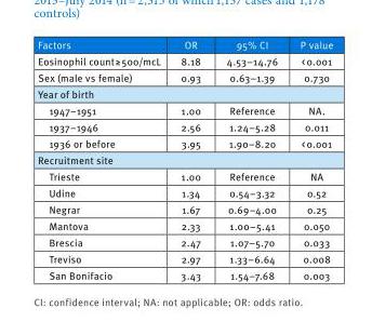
<table><thead><tr><td>Factors</td><td>OR</td><td>95% CI</td><td>P value</td></tr></thead><tbody><tr><td>Eosinophil count ≥ 500/mcL</td><td>8.18</td><td>4.53–14.76</td><td>&lt; 0.001</td></tr><tr><td>Sex (male vs female)</td><td>0.93</td><td>0.63–1.39</td><td>0.730</td></tr><tr><td colspan="4">Year of birth</td></tr><tr><td>1947–1951</td><td>1.00</td><td>Reference</td><td>NA.</td></tr><tr><td>1937–1946</td><td>2.56</td><td>1.24–5.28</td><td>0.011</td></tr><tr><td>1936 or before</td><td>3.95</td><td>1.90–8.20</td><td>&lt; 0.001</td></tr><tr><td colspan="4">Recruitment site</td></tr><tr><td>Trieste</td><td>1.00</td><td>Reference</td><td>NA</td></tr><tr><td>Udine</td><td>1.34</td><td>0.54–3.32</td><td>0.52</td></tr><tr><td>Negrar</td><td>1.67</td><td>0.69–4.00</td><td>0.25</td></tr><tr><td>Mantova</td><td>2.33</td><td>1.00–5.41</td><td>0.050</td></tr><tr><td>Brescia</td><td>2.47</td><td>1.07–5.70</td><td>0.033</td></tr><tr><td>Treviso</td><td>2.97</td><td>1.33–6.64</td><td>0.008</td></tr><tr><td>San Bonifacio</td><td>3.43</td><td>1.54–7.68</td><td>0.003</td></tr></tbody></table>